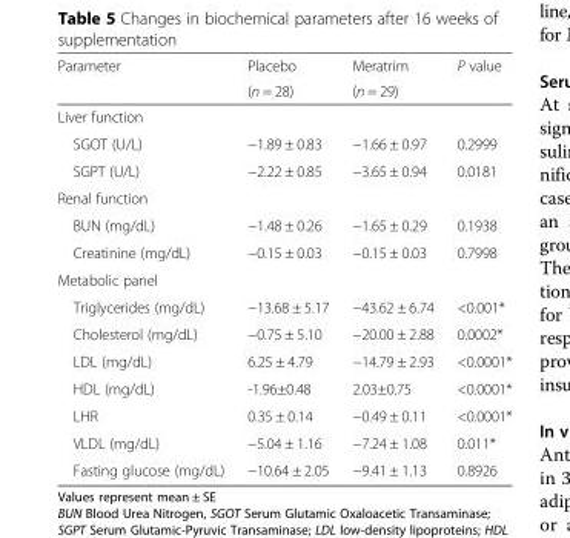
<table><thead><tr><td rowspan="2">Parameter</td><td rowspan="2">Placebo (n = 28)</td><td rowspan="2">Meratrim (n = 29)</td><td rowspan="2">P value</td></tr><tr></tr></thead><tbody><tr><td colspan="4">Liver function</td></tr><tr><td>SGOT (U/L)</td><td>−1.89 ± 0.83</td><td>−1.66 ± 0.97</td><td>0.2999</td></tr><tr><td>SGPT (U/L)</td><td>−2.22 ± 0.85</td><td>−3.65 ± 0.94</td><td>0.0181</td></tr><tr><td colspan="4">Renal function</td></tr><tr><td>BUN (mg/dL)</td><td>−1.48 ± 0.26</td><td>−1.65 ± 0.29</td><td>0.1938</td></tr><tr><td>Creatinine (mg/dL)</td><td>−0.15 ± 0.03</td><td>−0.15 ± 0.03</td><td>0.7998</td></tr><tr><td colspan="4">Metabolic panel</td></tr><tr><td>Triglycerides (mg/dL)</td><td>−13.68 ± 5.17</td><td>−43.62 ± 6.74</td><td>&lt;0.001*</td></tr><tr><td>Cholesterol (mg/dL)</td><td>−0.75 ± 5.10</td><td>−20.00 ± 2.88</td><td>0.0002*</td></tr><tr><td>LDL (mg/dL)</td><td>6.25 ± 4.79</td><td>−14.79 ± 2.93</td><td>&lt;0.0001*</td></tr><tr><td>HDL (mg/dL)</td><td>-1.96±0.48</td><td>2.03±0.75</td><td>&lt;0.0001*</td></tr><tr><td>LHR</td><td>0.35 ± 0.14</td><td>−0.49 ± 0.11</td><td>&lt;0.0001*</td></tr><tr><td>VLDL (mg/dL)</td><td>−5.04 ± 1.16</td><td>−7.24 ± 1.08</td><td>0.011*</td></tr><tr><td>Fasting glucose (mg/dL)</td><td>−10.64 ± 2.05</td><td>−9.41 ± 1.13</td><td>0.8926</td></tr></tbody></table>